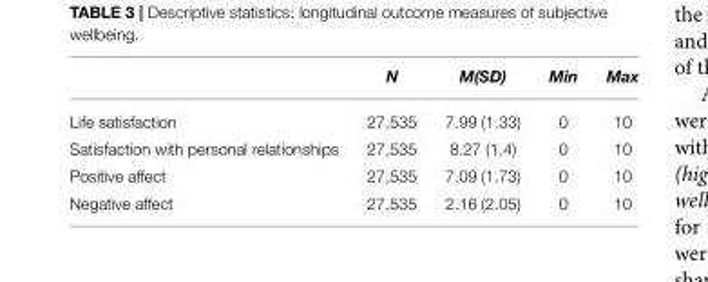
<table><thead><tr><td></td><td>N</td><td>M(SD)</td><td>Min</td><td>Max</td></tr></thead><tbody><tr><td>Life satisfaction</td><td>27,535</td><td>7.99 (1.33)</td><td>0</td><td>10</td></tr><tr><td>Satisfaction with personal relationships</td><td>27,535</td><td>8.27 (1.4)</td><td>0</td><td>10</td></tr><tr><td>Positive affect</td><td>27,535</td><td>7.09 (1.73)</td><td>0</td><td>10</td></tr><tr><td>Negative affect</td><td>27,535</td><td>2.16 (2.05)</td><td>0</td><td>10</td></tr></tbody></table>